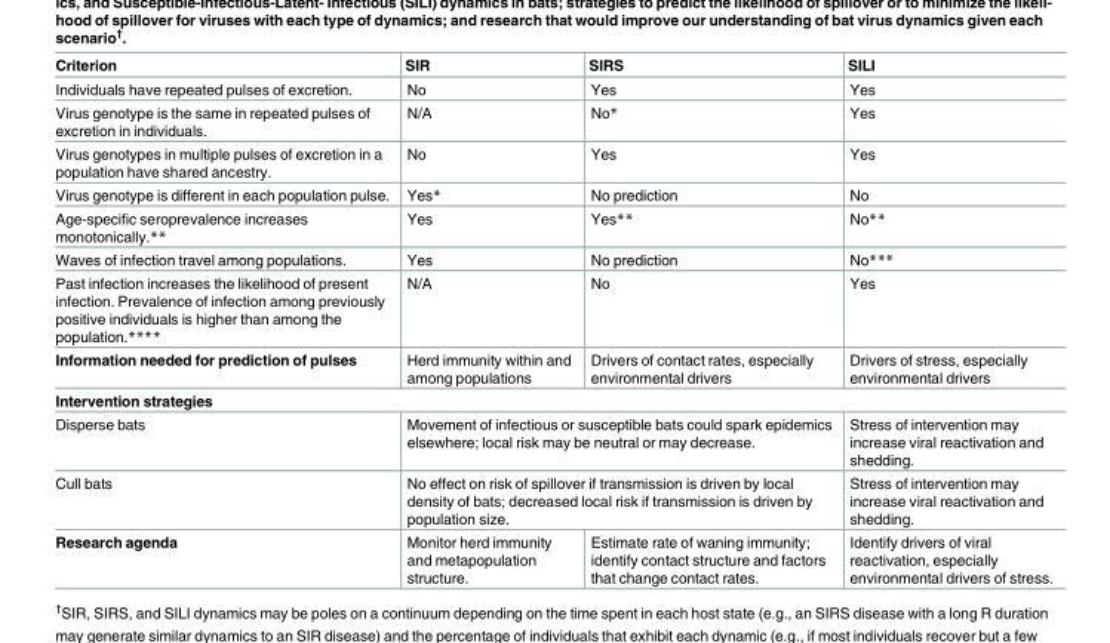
<table><thead><tr><td>Criterion</td><td>SIR</td><td>SIRS</td><td>SILI</td></tr></thead><tbody><tr><td>Individuals have repeated pulses of excretion.</td><td>No</td><td>Yes</td><td>Yes</td></tr><tr><td>Virus genotype is the same in repeated pulses of excretion in individuals.</td><td>N/A</td><td>No*</td><td>Yes</td></tr><tr><td>Virus genotypes in multiple pulses of excretion in a population have shared ancestry.</td><td>No</td><td>Yes</td><td>Yes</td></tr><tr><td>Virus genotype is different in each population pulse.</td><td>Yes*</td><td>No prediction</td><td>No</td></tr><tr><td>Age-specific seroprevalence increases monotonically.**</td><td>Yes</td><td>Yes**</td><td>No**</td></tr><tr><td>Waves of infection travel among populations.</td><td>Yes</td><td>No prediction</td><td>No***</td></tr><tr><td>Past infection increases the likelihood of present infection. Prevalence of infection among previously positive individuals is higher than among the population.****</td><td>N/A</td><td>No</td><td>Yes</td></tr><tr><td>Information needed for prediction of pulses</td><td>Herd immunity within and among populations</td><td>Drivers of contact rates, especially environmental drivers</td><td>Drivers of stress, especially environmental drivers</td></tr><tr><td colspan="4">Intervention strategies</td></tr><tr><td>Disperse bats</td><td colspan="2">Movement of infectious or susceptible bats could spark epidemics elsewhere; local risk may be neutral or may decrease.</td><td>Stress of intervention may increase viral reactivation and shedding.</td></tr><tr><td>Cull bats</td><td colspan="2">No effect on risk of spillover if transmission is driven by local density of bats; decreased local risk if transmission is driven by population size.</td><td>Stress of intervention may increase viral reactivation and shedding.</td></tr><tr><td>Research agenda</td><td>Monitor herd immunity and metapopulation structure.</td><td>Estimate rate of waning immunity; identify contact structure and factors that change contact rates.</td><td>Identify drivers of viral reactivation, especially environmental drivers of stress.</td></tr></tbody></table>